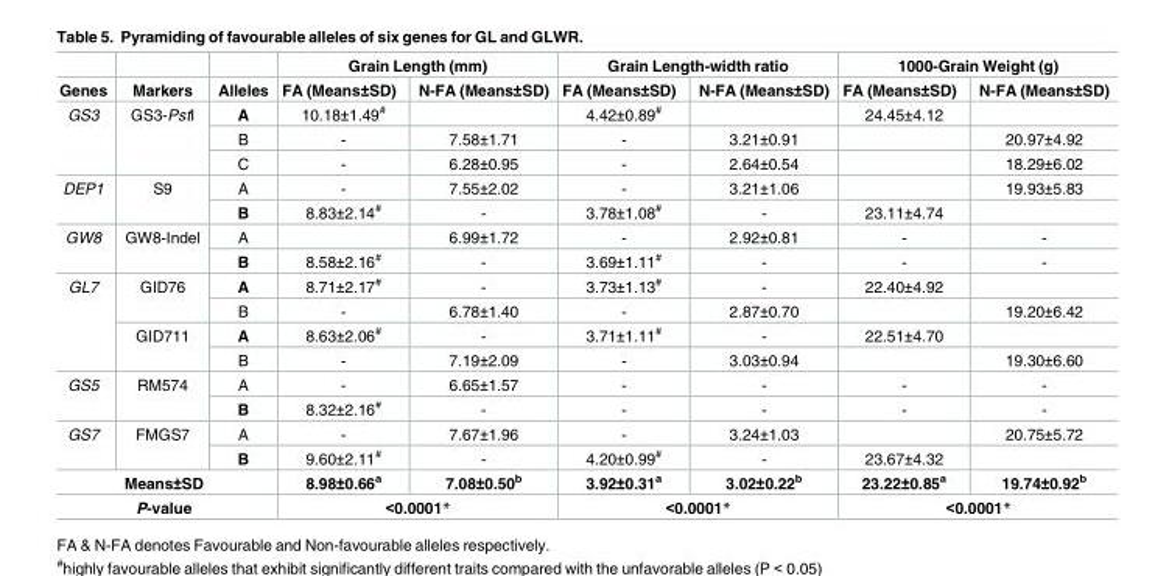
<table><thead><tr><td rowspan="2">Genes</td><td rowspan="2">Markers</td><td rowspan="2">Alleles</td><td colspan="2">Grain Length (mm)</td><td colspan="2">Grain Length-width ratio</td><td colspan="2">1000-Grain Weight (g)</td></tr><tr><td>FA (Means±SD)</td><td>N-FA (Means±SD)</td><td>FA (Means±SD)</td><td>N-FA (Means±SD)</td><td>FA (Means±SD)</td><td>N-FA (Means±SD)</td></tr></thead><tbody><tr><td rowspan="3">GS3</td><td rowspan="3">GS3-PstI</td><td>A</td><td>10.18±1.49<sup>#</sup></td><td></td><td>4.42±0.89<sup>#</sup></td><td></td><td>24.45±4.12</td><td></td></tr><tr><td>B</td><td>-</td><td>7.58±1.71</td><td>-</td><td>3.21±0.91</td><td></td><td>20.97±4.92</td></tr><tr><td>C</td><td>-</td><td>6.28±0.95</td><td>-</td><td>2.64±0.54</td><td></td><td>18.29±6.02</td></tr><tr><td rowspan="2">DEP1</td><td rowspan="2">S9</td><td>A</td><td>-</td><td>7.55±2.02</td><td>-</td><td>3.21±1.06</td><td></td><td>19.93±5.83</td></tr><tr><td>B</td><td>8.83±2.14<sup>#</sup></td><td>-</td><td>3.78±1.08<sup>#</sup></td><td>-</td><td>23.11±4.74</td><td></td></tr><tr><td rowspan="2">GW8</td><td rowspan="2">GW8-Indel</td><td>A</td><td></td><td>6.99±1.72</td><td>-</td><td>2.92±0.81</td><td>-</td><td>-</td></tr><tr><td>B</td><td>8.58±2.16<sup>#</sup></td><td>-</td><td>3.69±1.11<sup>#</sup></td><td>-</td><td>-</td><td>-</td></tr><tr><td rowspan="4">GL7</td><td rowspan="2">GID76</td><td>A</td><td>8.71±2.17<sup>#</sup></td><td>-</td><td>3.73±1.13<sup>#</sup></td><td>-</td><td>22.40±4.92</td><td></td></tr><tr><td>B</td><td>-</td><td>6.78±1.40</td><td>-</td><td>2.87±0.70</td><td></td><td>19.20±6.42</td></tr><tr><td rowspan="2">GID711</td><td>A</td><td>8.63±2.06<sup>#</sup></td><td>-</td><td>3.71±1.11<sup>#</sup></td><td>-</td><td>22.51±4.70</td><td></td></tr><tr><td>B</td><td>-</td><td>7.19±2.09</td><td>-</td><td>3.03±0.94</td><td></td><td>19.30±6.60</td></tr><tr><td rowspan="2">GS5</td><td rowspan="2">RM574</td><td>A</td><td>-</td><td>6.65±1.57</td><td>-</td><td>-</td><td>-</td><td>-</td></tr><tr><td>B</td><td>8.32±2.16<sup>#</sup></td><td>-</td><td>-</td><td>-</td><td>-</td><td>-</td></tr><tr><td rowspan="2">GS7</td><td rowspan="2">FMGS7</td><td>A</td><td>-</td><td>7.67±1.96</td><td>-</td><td>3.24±1.03</td><td></td><td>20.75±5.72</td></tr><tr><td>B</td><td>9.60±2.11<sup>#</sup></td><td>-</td><td>4.20±0.99<sup>#</sup></td><td>-</td><td>23.67±4.32</td><td></td></tr><tr><td colspan="3">Means±SD</td><td>8.98±0.66<sup>a</sup></td><td>7.08±0.50<sup>b</sup></td><td>3.92±0.31<sup>a</sup></td><td>3.02±0.22<sup>b</sup></td><td>23.22±0.85<sup>a</sup></td><td>19.74±0.92<sup>b</sup></td></tr><tr><td colspan="3">P-value</td><td colspan="2">&lt;0.0001*</td><td colspan="2">&lt;0.0001*</td><td colspan="2">&lt;0.0001*</td></tr></tbody></table>